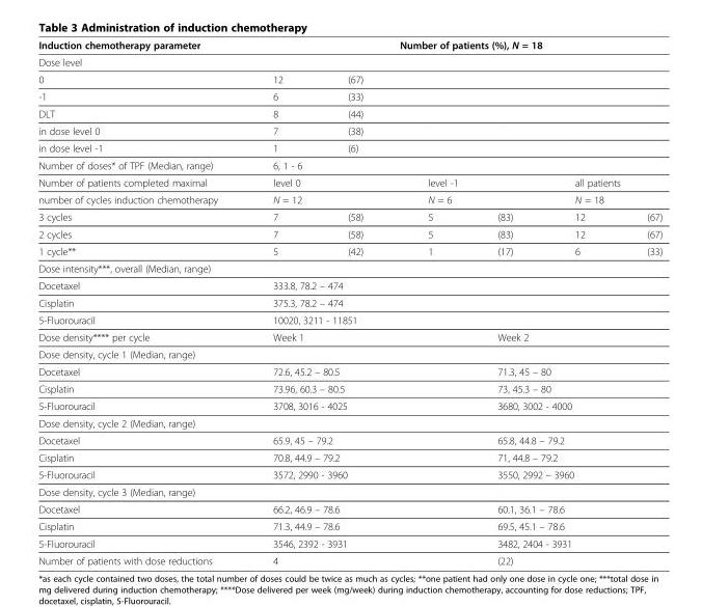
<table><tbody><tr><td>Induction chemotherapy parameter</td><td colspan="6">Number of patients (%), N = 18</td></tr><tr><td colspan="7">Dose level</td></tr><tr><td>0</td><td>12</td><td>(67)</td><td></td><td></td><td></td><td></td></tr><tr><td>-1</td><td>6</td><td>(33)</td><td></td><td></td><td></td><td></td></tr><tr><td>DLT</td><td>8</td><td>(44)</td><td></td><td></td><td></td><td></td></tr><tr><td>in dose level 0</td><td>7</td><td>(38)</td><td></td><td></td><td></td><td></td></tr><tr><td>in dose level -1</td><td>1</td><td>(6)</td><td></td><td></td><td></td><td></td></tr><tr><td>Number of doses* of TPF (Median, range)</td><td colspan="6">6, 1 - 6</td></tr><tr><td>Number of patients completed maximal</td><td colspan="2">level 0</td><td colspan="2">level -1</td><td colspan="2">all patients</td></tr><tr><td>number of cycles induction chemotherapy</td><td colspan="2">N = 12</td><td colspan="2">N = 6</td><td colspan="2">N = 18</td></tr><tr><td>3 cycles</td><td>7</td><td>(58)</td><td>5</td><td>(83)</td><td>12</td><td>(67)</td></tr><tr><td>2 cycles</td><td>7</td><td>(58)</td><td>5</td><td>(83)</td><td>12</td><td>(67)</td></tr><tr><td>1 cycle**</td><td>5</td><td>(42)</td><td>1</td><td>(17)</td><td>6</td><td>(33)</td></tr><tr><td colspan="7">Dose intensity***, overall (Median, range)</td></tr><tr><td>Docetaxel</td><td colspan="6">333.8, 78.2 – 474</td></tr><tr><td>Cisplatin</td><td colspan="6">375.3, 78.2 – 474</td></tr><tr><td>5-Fluorouracil</td><td colspan="6">10020, 3211 - 11851</td></tr><tr><td>Dose density**** per cycle</td><td colspan="3">Week 1</td><td colspan="3">Week 2</td></tr><tr><td colspan="7">Dose density, cycle 1 (Median, range)</td></tr><tr><td>Docetaxel</td><td colspan="3">72.6, 45.2 – 80.5</td><td colspan="3">71.3, 45 – 80</td></tr><tr><td>Cisplatin</td><td colspan="3">73.96, 60.3 – 80.5</td><td colspan="3">73, 45.3 – 80</td></tr><tr><td>5-Fluorouracil</td><td colspan="3">3708, 3016 - 4025</td><td colspan="3">3680, 3002 - 4000</td></tr><tr><td colspan="7">Dose density, cycle 2 (Median, range)</td></tr><tr><td>Docetaxel</td><td colspan="3">65.9, 45 – 79.2</td><td colspan="3">65.8, 44.8 – 79.2</td></tr><tr><td>Cisplatin</td><td colspan="3">70.8, 44.9 – 79.2</td><td colspan="3">71, 44.8 – 79.2</td></tr><tr><td>5-Fluorouracil</td><td colspan="3">3572, 2990 - 3960</td><td colspan="3">3550, 2992 – 3960</td></tr><tr><td colspan="7">Dose density, cycle 3 (Median, range)</td></tr><tr><td>Docetaxel</td><td colspan="3">66.2, 46.9 – 78.6</td><td colspan="3">60.1, 36.1 – 78.6</td></tr><tr><td>Cisplatin</td><td colspan="3">71.3, 44.9 – 78.6</td><td colspan="3">69.5, 45.1 – 78.6</td></tr><tr><td>5-Fluorouracil</td><td colspan="3">3546, 2392 - 3931</td><td colspan="3">3482, 2404 - 3931</td></tr><tr><td>Number of patients with dose reductions</td><td colspan="3">4</td><td colspan="3">(22)</td></tr></tbody></table>